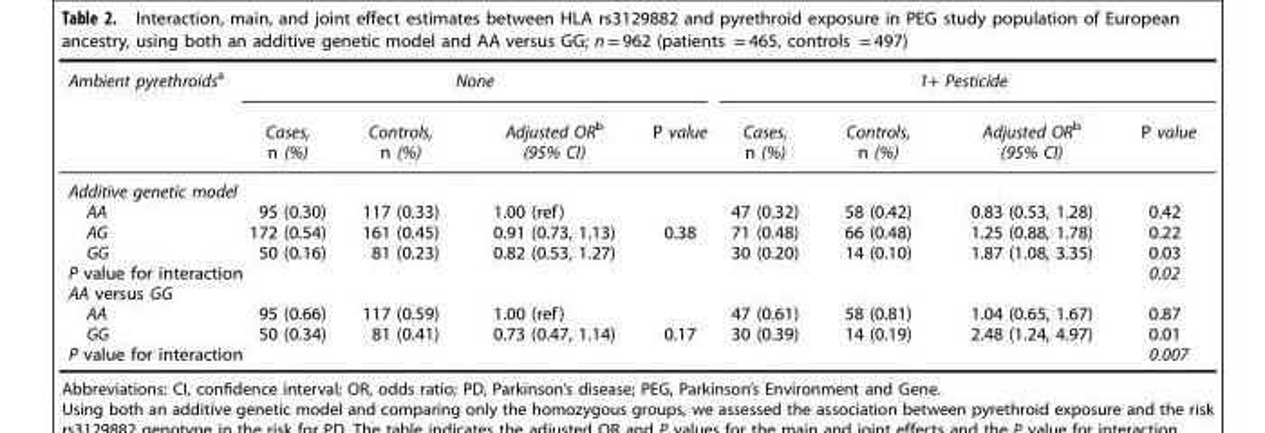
<table><thead><tr><td rowspan="2">Ambient pyrethroidsa</td><td colspan="4">None</td><td colspan="4">1+ Pesticide</td></tr><tr><td>Cases, n (%)</td><td>Controls, n (%)</td><td>Adjusted ORb (95% CI)</td><td>P value</td><td>Cases, n (%)</td><td>Controls, n (%)</td><td>Adjusted ORb (95% CI)</td><td>P value</td></tr></thead><tbody><tr><td colspan="9">Additive genetic model</td></tr><tr><td>AA</td><td>95 (0.30)</td><td>117 (0.33)</td><td>1.00 (ref)</td><td></td><td>47 (0.32)</td><td>58 (0.42)</td><td>0.83 (0.53, 1.28)</td><td>0.42</td></tr><tr><td>AG</td><td>172 (0.54)</td><td>161 (0.45)</td><td>0.91 (0.73, 1.13)</td><td>0.38</td><td>71 (0.48)</td><td>66 (0.48)</td><td>1.25 (0.88, 1.78)</td><td>0.22</td></tr><tr><td>GG</td><td>50 (0.16)</td><td>81 (0.23)</td><td>0.82 (0.53, 1.27)</td><td></td><td>30 (0.20)</td><td>14 (0.10)</td><td>1.87 (1.08, 3.35)</td><td>0.03</td></tr><tr><td colspan="8">P value for interaction</td><td>0.02</td></tr><tr><td colspan="9">AA versus GG</td></tr><tr><td>AA</td><td>95 (0.66)</td><td>117 (0.59)</td><td>1.00 (ref)</td><td></td><td>47 (0.61)</td><td>58 (0.81)</td><td>1.04 (0.65, 1.67)</td><td>0.87</td></tr><tr><td>GG</td><td>50 (0.34)</td><td>81 (0.41)</td><td>0.73 (0.47, 1.14)</td><td>0.17</td><td>30 (0.39)</td><td>14 (0.19)</td><td>2.48 (1.24, 4.97)</td><td>0.01</td></tr><tr><td colspan="8">P value for interaction</td><td>0.007</td></tr></tbody></table>